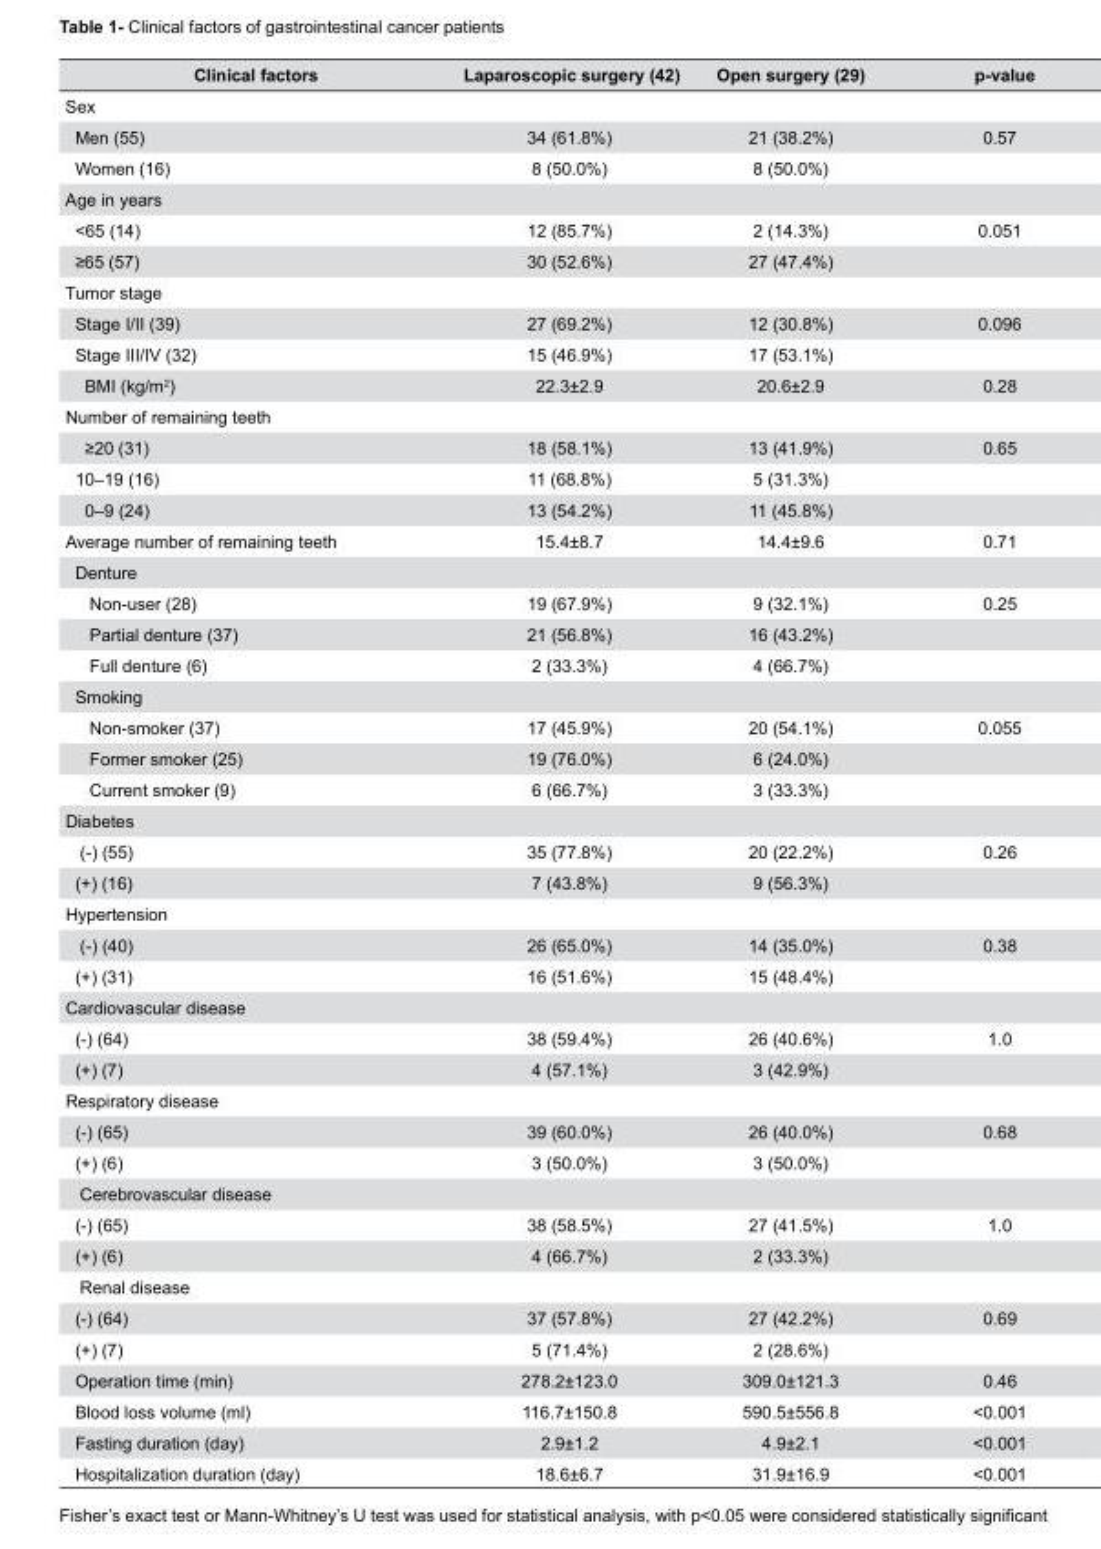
<table><thead><tr><td>Clinical factors</td><td>Laparoscopic surgery (42)</td><td>Open surgery (29)</td><td>p-value</td></tr></thead><tbody><tr><td colspan="4">Sex</td></tr><tr><td>Men (55)</td><td>34 (61.8%)</td><td>21 (38.2%)</td><td>0.57</td></tr><tr><td>Women (16)</td><td>8 (50.0%)</td><td>8 (50.0%)</td><td></td></tr><tr><td colspan="4">Age in years</td></tr><tr><td>&lt;65 (14)</td><td>12 (85.7%)</td><td>2 (14.3%)</td><td>0.051</td></tr><tr><td>≥65 (57)</td><td>30 (52.6%)</td><td>27 (47.4%)</td><td></td></tr><tr><td colspan="4">Tumor stage</td></tr><tr><td>Stage I/II (39)</td><td>27 (69.2%)</td><td>12 (30.8%)</td><td>0.096</td></tr><tr><td>Stage III/IV (32)</td><td>15 (46.9%)</td><td>17 (53.1%)</td><td></td></tr><tr><td>BMI (kg/m<sup>2</sup>)</td><td>22.3±2.9</td><td>20.6±2.9</td><td>0.28</td></tr><tr><td colspan="4">Number of remaining teeth</td></tr><tr><td>≥20 (31)</td><td>18 (58.1%)</td><td>13 (41.9%)</td><td>0.65</td></tr><tr><td>10–19 (16)</td><td>11 (68.8%)</td><td>5 (31.3%)</td><td></td></tr><tr><td>0–9 (24)</td><td>13 (54.2%)</td><td>11 (45.8%)</td><td></td></tr><tr><td>Average number of remaining teeth</td><td>15.4±8.7</td><td>14.4±9.6</td><td>0.71</td></tr><tr><td colspan="4">Denture</td></tr><tr><td>Non-user (28)</td><td>19 (67.9%)</td><td>9 (32.1%)</td><td>0.25</td></tr><tr><td>Partial denture (37)</td><td>21 (56.8%)</td><td>16 (43.2%)</td><td></td></tr><tr><td>Full denture (6)</td><td>2 (33.3%)</td><td>4 (66.7%)</td><td></td></tr><tr><td colspan="4">Smoking</td></tr><tr><td>Non-smoker (37)</td><td>17 (45.9%)</td><td>20 (54.1%)</td><td>0.055</td></tr><tr><td>Former smoker (25)</td><td>19 (76.0%)</td><td>6 (24.0%)</td><td></td></tr><tr><td>Current smoker (9)</td><td>6 (66.7%)</td><td>3 (33.3%)</td><td></td></tr><tr><td colspan="4">Diabetes</td></tr><tr><td>(-) (55)</td><td>35 (77.8%)</td><td>20 (22.2%)</td><td>0.26</td></tr><tr><td>(+) (16)</td><td>7 (43.8%)</td><td>9 (56.3%)</td><td></td></tr><tr><td colspan="4">Hypertension</td></tr><tr><td>(-) (40)</td><td>26 (65.0%)</td><td>14 (35.0%)</td><td>0.38</td></tr><tr><td>(+) (31)</td><td>16 (51.6%)</td><td>15 (48.4%)</td><td></td></tr><tr><td colspan="4">Cardiovascular disease</td></tr><tr><td>(-) (64)</td><td>38 (59.4%)</td><td>26 (40.6%)</td><td>1.0</td></tr><tr><td>(+) (7)</td><td>4 (57.1%)</td><td>3 (42.9%)</td><td></td></tr><tr><td colspan="4">Respiratory disease</td></tr><tr><td>(-) (65)</td><td>39 (60.0%)</td><td>26 (40.0%)</td><td>0.68</td></tr><tr><td>(+) (6)</td><td>3 (50.0%)</td><td>3 (50.0%)</td><td></td></tr><tr><td colspan="4">Cerebrovascular disease</td></tr><tr><td>(-) (65)</td><td>38 (58.5%)</td><td>27 (41.5%)</td><td>1.0</td></tr><tr><td>(+) (6)</td><td>4 (66.7%)</td><td>2 (33.3%)</td><td></td></tr><tr><td colspan="4">Renal disease</td></tr><tr><td>(-) (64)</td><td>37 (57.8%)</td><td>27 (42.2%)</td><td>0.69</td></tr><tr><td>(+) (7)</td><td>5 (71.4%)</td><td>2 (28.6%)</td><td></td></tr><tr><td>Operation time (min)</td><td>278.2±123.0</td><td>309.0±121.3</td><td>0.46</td></tr><tr><td>Blood loss volume (ml)</td><td>116.7±150.8</td><td>590.5±556.8</td><td>&lt;0.001</td></tr><tr><td>Fasting duration (day)</td><td>2.9±1.2</td><td>4.9±2.1</td><td>&lt;0.001</td></tr><tr><td>Hospitalization duration (day)</td><td>18.6±6.7</td><td>31.9±16.9</td><td>&lt;0.001</td></tr></tbody></table>